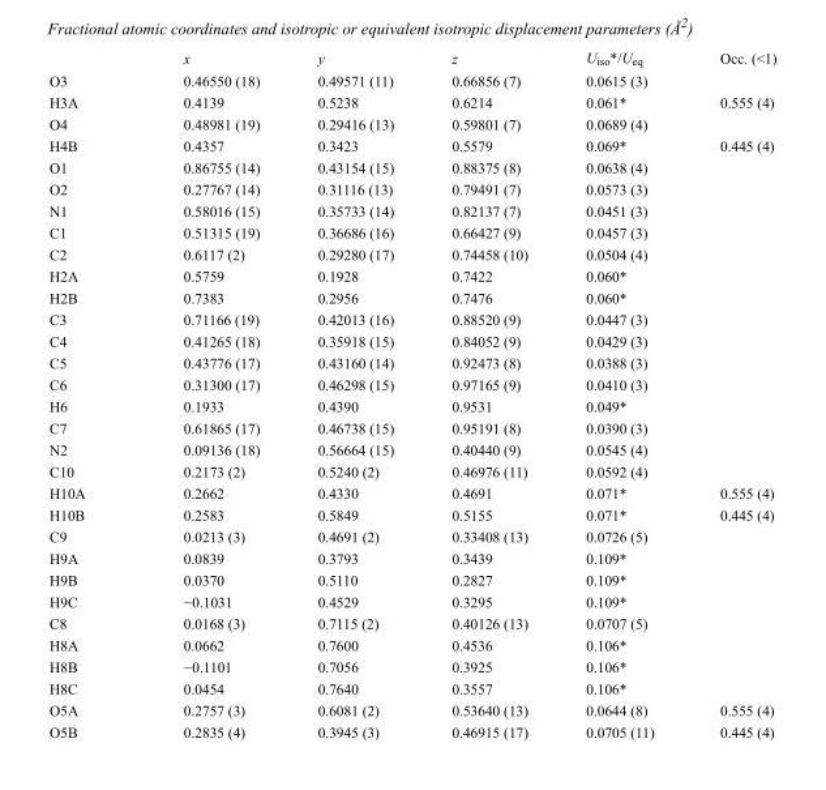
<table><thead><tr><td></td><td>x</td><td>y</td><td>z</td><td>U<sub>iso</sub>*/U<sub>eq</sub></td><td>Occ. (&lt;1)</td></tr></thead><tbody><tr><td>O3</td><td>0.46550 (18)</td><td>0.49571 (11)</td><td>0.66856 (7)</td><td>0.0615 (3)</td><td></td></tr><tr><td>H3A</td><td>0.4139</td><td>0.5238</td><td>0.6214</td><td>0.061*</td><td>0.555 (4)</td></tr><tr><td>O4</td><td>0.48981 (19)</td><td>0.29416 (13)</td><td>0.59801 (7)</td><td>0.0689 (4)</td><td></td></tr><tr><td>H4B</td><td>0.4357</td><td>0.3423</td><td>0.5579</td><td>0.069*</td><td>0.445 (4)</td></tr><tr><td>O1</td><td>0.86755 (14)</td><td>0.43154 (15)</td><td>0.88375 (8)</td><td>0.0638 (4)</td><td></td></tr><tr><td>O2</td><td>0.27767 (14)</td><td>0.31116 (13)</td><td>0.79491 (7)</td><td>0.0573 (3)</td><td></td></tr><tr><td>N1</td><td>0.58016 (15)</td><td>0.35733 (14)</td><td>0.82137 (7)</td><td>0.0451 (3)</td><td></td></tr><tr><td>C1</td><td>0.51315 (19)</td><td>0.36686 (16)</td><td>0.66427 (9)</td><td>0.0457 (3)</td><td></td></tr><tr><td>C2</td><td>0.6117 (2)</td><td>0.29280 (17)</td><td>0.74458 (10)</td><td>0.0504 (4)</td><td></td></tr><tr><td>H2A</td><td>0.5759</td><td>0.1928</td><td>0.7422</td><td>0.060*</td><td></td></tr><tr><td>H2B</td><td>0.7383</td><td>0.2956</td><td>0.7476</td><td>0.060*</td><td></td></tr><tr><td>C3</td><td>0.71166 (19)</td><td>0.42013 (16)</td><td>0.88520 (9)</td><td>0.0447 (3)</td><td></td></tr><tr><td>C4</td><td>0.41265 (18)</td><td>0.35918 (15)</td><td>0.84052 (9)</td><td>0.0429 (3)</td><td></td></tr><tr><td>C5</td><td>0.43776 (17)</td><td>0.43160 (14)</td><td>0.92473 (8)</td><td>0.0388 (3)</td><td></td></tr><tr><td>C6</td><td>0.31300 (17)</td><td>0.46298 (15)</td><td>0.97165 (9)</td><td>0.0410 (3)</td><td></td></tr><tr><td>H6</td><td>0.1933</td><td>0.4390</td><td>0.9531</td><td>0.049*</td><td></td></tr><tr><td>C7</td><td>0.61865 (17)</td><td>0.46738 (15)</td><td>0.95191 (8)</td><td>0.0390 (3)</td><td></td></tr><tr><td>N2</td><td>0.09136 (18)</td><td>0.56664 (15)</td><td>0.40440 (9)</td><td>0.0545 (4)</td><td></td></tr><tr><td>C10</td><td>0.2173 (2)</td><td>0.5240 (2)</td><td>0.46976 (11)</td><td>0.0592 (4)</td><td></td></tr><tr><td>H10A</td><td>0.2662</td><td>0.4330</td><td>0.4691</td><td>0.071*</td><td>0.555 (4)</td></tr><tr><td>H10B</td><td>0.2583</td><td>0.5849</td><td>0.5155</td><td>0.071*</td><td>0.445 (4)</td></tr><tr><td>C9</td><td>0.0213 (3)</td><td>0.4691 (2)</td><td>0.33408 (13)</td><td>0.0726 (5)</td><td></td></tr><tr><td>H9A</td><td>0.0839</td><td>0.3793</td><td>0.3439</td><td>0.109*</td><td></td></tr><tr><td>H9B</td><td>0.0370</td><td>0.5110</td><td>0.2827</td><td>0.109*</td><td></td></tr><tr><td>H9C</td><td>−0.1031</td><td>0.4529</td><td>0.3295</td><td>0.109*</td><td></td></tr><tr><td>C8</td><td>0.0168 (3)</td><td>0.7115 (2)</td><td>0.40126 (13)</td><td>0.0707 (5)</td><td></td></tr><tr><td>H8A</td><td>0.0662</td><td>0.7600</td><td>0.4536</td><td>0.106*</td><td></td></tr><tr><td>H8B</td><td>−0.1101</td><td>0.7056</td><td>0.3925</td><td>0.106*</td><td></td></tr><tr><td>H8C</td><td>0.0454</td><td>0.7640</td><td>0.3557</td><td>0.106*</td><td></td></tr><tr><td>O5A</td><td>0.2757 (3)</td><td>0.6081 (2)</td><td>0.53640 (13)</td><td>0.0644 (8)</td><td>0.555 (4)</td></tr><tr><td>O5B</td><td>0.2835 (4)</td><td>0.3945 (3)</td><td>0.46915 (17)</td><td>0.0705 (11)</td><td>0.445 (4)</td></tr></tbody></table>